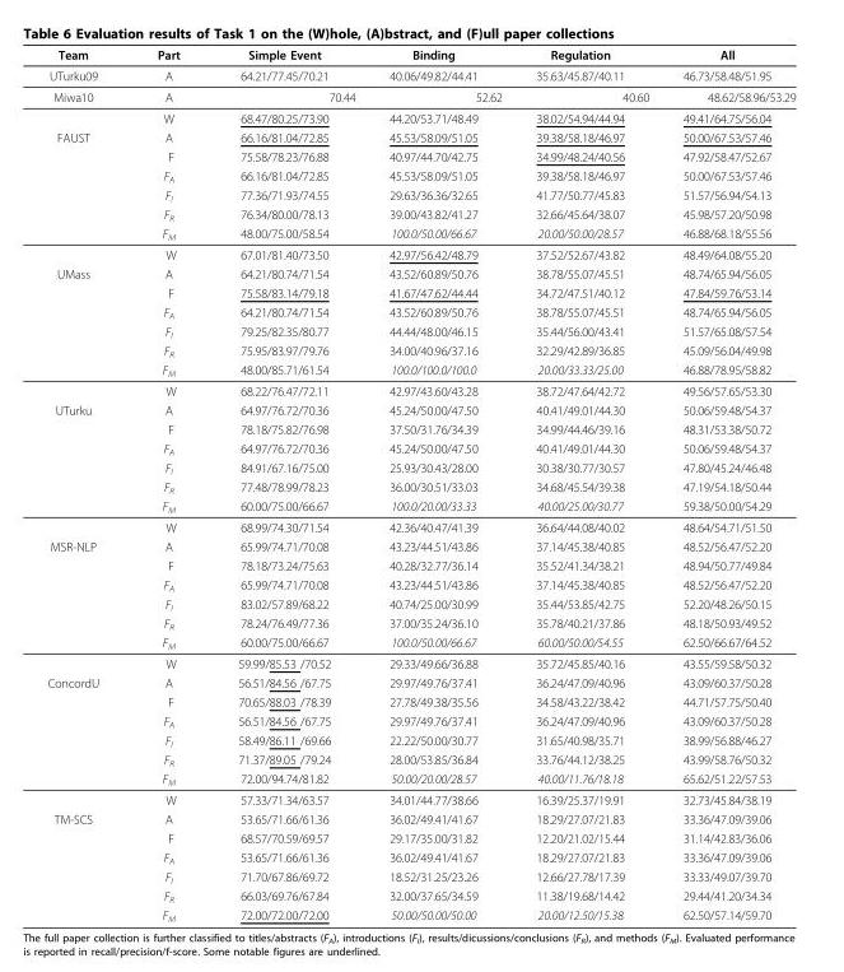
<table><thead><tr><td>Team</td><td>Part</td><td>Simple Event</td><td>Binding</td><td>Regulation</td><td>All</td></tr></thead><tbody><tr><td>UTurku09</td><td>A</td><td>64.21/77.45/70.21</td><td>40.06/49.82/44.41</td><td>35.63/45.87/40.11</td><td>46.73/58.48/51.95</td></tr><tr><td rowspan="2">Miwa10</td><td>A</td><td>70.44</td><td>52.62</td><td>40.60</td><td>48.62/58.96/53.29</td></tr><tr><td>W</td><td>68.47/80.25/73.90</td><td>44.20/53.71/48.49</td><td>38.02/54.94/44.94</td><td>49.41/64.75/56.04</td></tr><tr><td rowspan="7">FAUST</td><td>A</td><td>66.16/81.04/72.85</td><td>45.53/58.09/51.05</td><td>39.38/58.18/46.97</td><td>50.00/67.53/57.46</td></tr><tr><td>F</td><td>75.58/78.23/76.88</td><td>40.97/44.70/42.75</td><td>34.99/48.24/40.56</td><td>47.92/58.47/52.67</td></tr><tr><td>F<sub>A</sub></td><td>66.16/81.04/72.85</td><td>45.53/58.09/51.05</td><td>39.38/58.18/46.97</td><td>50.00/67.53/57.46</td></tr><tr><td>F<sub>I</sub></td><td>77.36/71.93/74.55</td><td>29.63/36.36/32.65</td><td>41.77/50.77/45.83</td><td>51.57/56.94/54.13</td></tr><tr><td>F<sub>R</sub></td><td>76.34/80.00/78.13</td><td>39.00/43.82/41.27</td><td>32.66/45.64/38.07</td><td>45.98/57.20/50.98</td></tr><tr><td>F<sub>M</sub></td><td>48.00/75.00/58.54</td><td>100.0/50.00/66.67</td><td>20.00/50.00/28.57</td><td>46.88/68.18/55.56</td></tr><tr><td>W</td><td>67.01/81.40/73.50</td><td>42.97/56.42/48.79</td><td>37.52/52.67/43.82</td><td>48.49/64.08/55.20</td></tr><tr><td rowspan="7">UMass</td><td>A</td><td>64.21/80.74/71.54</td><td>43.52/60.89/50.76</td><td>38.78/55.07/45.51</td><td>48.74/65.94/56.05</td></tr><tr><td>F</td><td>75.58/83.14/79.18</td><td>41.67/47.62/44.44</td><td>34.72/47.51/40.12</td><td>47.84/59.76/53.14</td></tr><tr><td>F<sub>A</sub></td><td>64.21/80.74/71.54</td><td>43.52/60.89/50.76</td><td>38.78/55.07/45.51</td><td>48.74/65.94/56.05</td></tr><tr><td>F<sub>I</sub></td><td>79.25/82.35/80.77</td><td>44.44/48.00/46.15</td><td>35.44/56.00/43.41</td><td>51.57/65.08/57.54</td></tr><tr><td>F<sub>R</sub></td><td>75.95/83.97/79.76</td><td>34.00/40.96/37.16</td><td>32.29/42.89/36.85</td><td>45.09/56.04/49.98</td></tr><tr><td>F<sub>M</sub></td><td>48.00/85.71/61.54</td><td>100.0/100.0/100.0</td><td>20.00/33.33/25.00</td><td>46.88/78.95/58.82</td></tr><tr><td>W</td><td>68.22/76.47/72.11</td><td>42.97/43.60/43.28</td><td>38.72/47.64/42.72</td><td>49.56/57.65/53.30</td></tr><tr><td rowspan="7">UTurku</td><td>A</td><td>64.97/76.72/70.36</td><td>45.24/50.00/47.50</td><td>40.41/49.01/44.30</td><td>50.06/59.48/54.37</td></tr><tr><td>F</td><td>78.18/75.82/76.98</td><td>37.50/31.76/34.39</td><td>34.99/44.46/39.16</td><td>48.31/53.38/50.72</td></tr><tr><td>F<sub>A</sub></td><td>64.97/76.72/70.36</td><td>45.24/50.00/47.50</td><td>40.41/49.01/44.30</td><td>50.06/59.48/54.37</td></tr><tr><td>F<sub>I</sub></td><td>84.91/67.16/75.00</td><td>25.93/30.43/28.00</td><td>30.38/30.77/30.57</td><td>47.80/45.24/46.48</td></tr><tr><td>F<sub>R</sub></td><td>77.48/78.99/78.23</td><td>36.00/30.51/33.03</td><td>34.68/45.54/39.38</td><td>47.19/54.18/50.44</td></tr><tr><td>F<sub>M</sub></td><td>60.00/75.00/66.67</td><td>100.0/20.00/33.33</td><td>40.00/25.00/30.77</td><td>59.38/50.00/54.29</td></tr><tr><td>W</td><td>68.99/74.30/71.54</td><td>42.36/40.47/41.39</td><td>36.64/44.08/40.02</td><td>48.64/54.71/51.50</td></tr><tr><td rowspan="7">MSR-NLP</td><td>A</td><td>65.99/74.71/70.08</td><td>43.23/44.51/43.86</td><td>37.14/45.38/40.85</td><td>48.52/56.47/52.20</td></tr><tr><td>F</td><td>78.18/73.24/75.63</td><td>40.28/32.77/36.14</td><td>35.52/41.34/38.21</td><td>48.94/50.77/49.84</td></tr><tr><td>F<sub>A</sub></td><td>65.99/74.71/70.08</td><td>43.23/44.51/43.86</td><td>37.14/45.38/40.85</td><td>48.52/56.47/52.20</td></tr><tr><td>F<sub>I</sub></td><td>83.02/57.89/68.22</td><td>40.74/25.00/30.99</td><td>35.44/53.85/42.75</td><td>52.20/48.26/50.15</td></tr><tr><td>F<sub>R</sub></td><td>78.24/76.49/77.36</td><td>37.00/35.24/36.10</td><td>35.78/40.21/37.86</td><td>48.18/50.93/49.52</td></tr><tr><td>F<sub>M</sub></td><td>60.00/75.00/66.67</td><td>100.0/50.00/66.67</td><td>60.00/50.00/54.55</td><td>62.50/66.67/64.52</td></tr><tr><td>W</td><td>59.99/85.53 /70.52</td><td>29.33/49.66/36.88</td><td>35.72/45.85/40.16</td><td>43.55/59.58/50.32</td></tr><tr><td rowspan="7">ConcordU</td><td>A</td><td>56.51/84.56 /67.75</td><td>29.97/49.76/37.41</td><td>36.24/47.09/40.96</td><td>43.09/60.37/50.28</td></tr><tr><td>F</td><td>70.65/88.03 /78.39</td><td>27.78/49.38/35.56</td><td>34.58/43.22/38.42</td><td>44.71/57.75/50.40</td></tr><tr><td>F<sub>A</sub></td><td>56.51/84.56 /67.75</td><td>29.97/49.76/37.41</td><td>36.24/47.09/40.96</td><td>43.09/60.37/50.28</td></tr><tr><td>F<sub>I</sub></td><td>58.49/86.11 /69.66</td><td>22.22/50.00/30.77</td><td>31.65/40.98/35.71</td><td>38.99/56.88/46.27</td></tr><tr><td>F<sub>R</sub></td><td>71.37/89.05 /79.24</td><td>28.00/53.85/36.84</td><td>33.76/44.12/38.25</td><td>43.99/58.76/50.32</td></tr><tr><td>F<sub>M</sub></td><td>72.00/94.74/81.82</td><td>50.00/20.00/28.57</td><td>40.00/11.76/18.18</td><td>65.62/51.22/57.53</td></tr><tr><td>W</td><td>57.33/71.34/63.57</td><td>34.01/44.77/38.66</td><td>16.39/25.37/19.91</td><td>32.73/45.84/38.19</td></tr><tr><td rowspan="6">TM-SCS</td><td>A</td><td>53.65/71.66/61.36</td><td>36.02/49.41/41.67</td><td>18.29/27.07/21.83</td><td>33.36/47.09/39.06</td></tr><tr><td>F</td><td>68.57/70.59/69.57</td><td>29.17/35.00/31.82</td><td>12.20/21.02/15.44</td><td>31.14/42.83/36.06</td></tr><tr><td>F<sub>A</sub></td><td>53.65/71.66/61.36</td><td>36.02/49.41/41.67</td><td>18.29/27.07/21.83</td><td>33.36/47.09/39.06</td></tr><tr><td>F<sub>I</sub></td><td>71.70/67.86/69.72</td><td>18.52/31.25/23.26</td><td>12.66/27.78/17.39</td><td>33.33/49.07/39.70</td></tr><tr><td>F<sub>R</sub></td><td>66.03/69.76/67.84</td><td>32.00/37.65/34.59</td><td>11.38/19.68/14.42</td><td>29.44/41.20/34.34</td></tr><tr><td>F<sub>M</sub></td><td>72.00/72.00/72.00</td><td>50.00/50.00/50.00</td><td>20.00/12.50/15.38</td><td>62.50/57.14/59.70</td></tr></tbody></table>